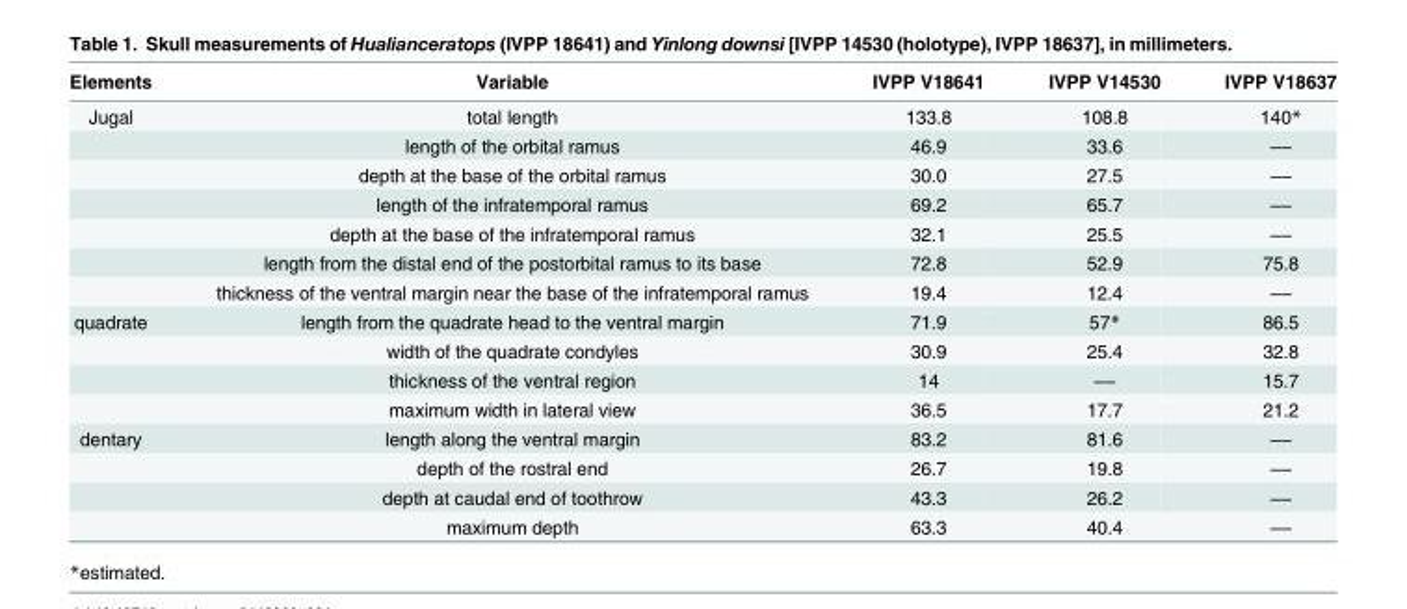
<table><thead><tr><td>Elements</td><td>Variable</td><td>IVPP V18641</td><td>IVPP V14530</td><td>IVPP V18637</td></tr></thead><tbody><tr><td rowspan="7">Jugal</td><td>total length</td><td>133.8</td><td>108.8</td><td>140*</td></tr><tr><td>length of the orbital ramus</td><td>46.9</td><td>33.6</td><td>––</td></tr><tr><td>depth at the base of the orbital ramus</td><td>30.0</td><td>27.5</td><td>––</td></tr><tr><td>length of the infratemporal ramus</td><td>69.2</td><td>65.7</td><td>––</td></tr><tr><td>depth at the base of the infratemporal ramus</td><td>32.1</td><td>25.5</td><td>––</td></tr><tr><td>length from the distal end of the postorbital ramus to its base</td><td>72.8</td><td>52.9</td><td>75.8</td></tr><tr><td>thickness of the ventral margin near the base of the infratemporal ramus</td><td>19.4</td><td>12.4</td><td>––</td></tr><tr><td rowspan="4">quadrate</td><td>length from the quadrate head to the ventral margin</td><td>71.9</td><td>57*</td><td>86.5</td></tr><tr><td>width of the quadrate condyles</td><td>30.9</td><td>25.4</td><td>32.8</td></tr><tr><td>thickness of the ventral region</td><td>14</td><td>––</td><td>15.7</td></tr><tr><td>maximum width in lateral view</td><td>36.5</td><td>17.7</td><td>21.2</td></tr><tr><td rowspan="4">dentary</td><td>length along the ventral margin</td><td>83.2</td><td>81.6</td><td>––</td></tr><tr><td>depth of the rostral end</td><td>26.7</td><td>19.8</td><td>––</td></tr><tr><td>depth at caudal end of toothrow</td><td>43.3</td><td>26.2</td><td>––</td></tr><tr><td>maximum depth</td><td>63.3</td><td>40.4</td><td>––</td></tr></tbody></table>